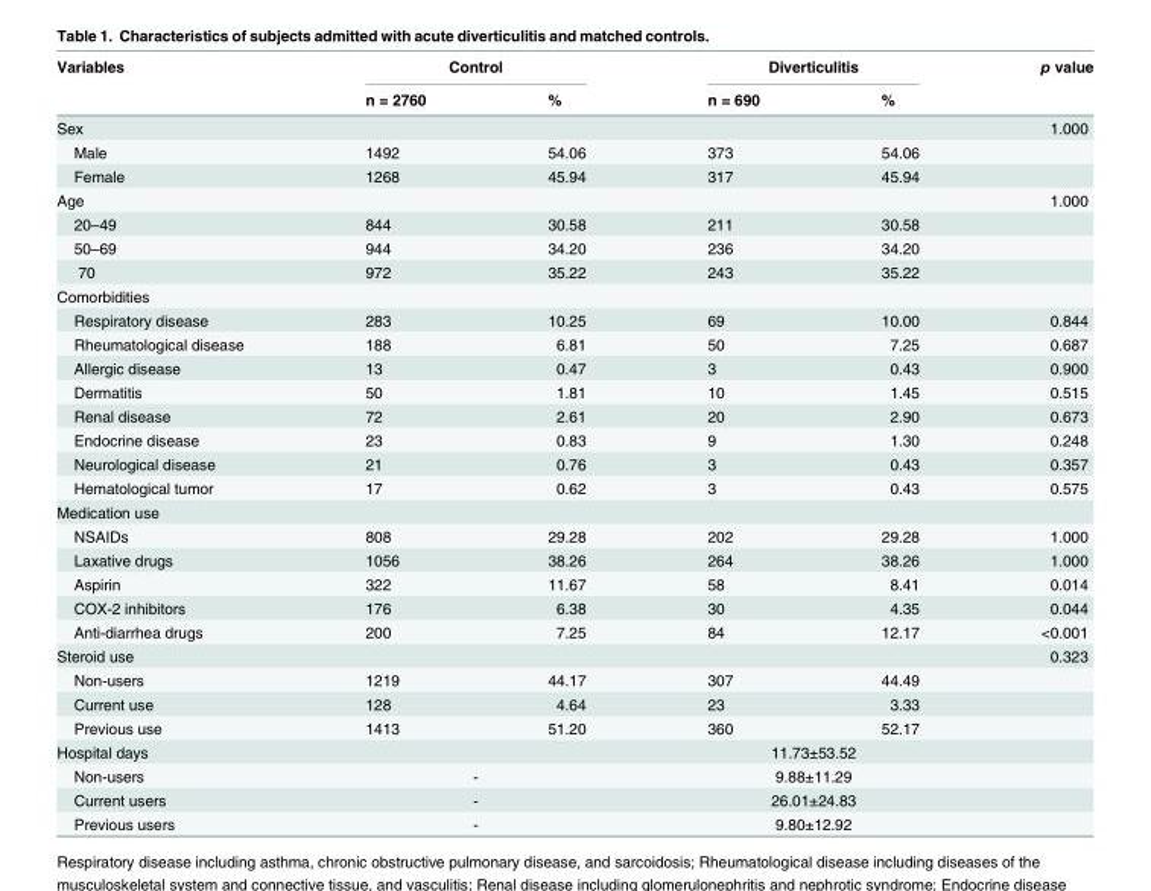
<table><thead><tr><td rowspan="2">Variables</td><td colspan="2">Control</td><td colspan="2">Diverticulitis</td><td rowspan="2">p value</td></tr><tr><td>n = 2760</td><td>%</td><td>n = 690</td><td>%</td></tr></thead><tbody><tr><td>Sex</td><td></td><td></td><td></td><td></td><td>1.000</td></tr><tr><td>Male</td><td>1492</td><td>54.06</td><td>373</td><td>54.06</td><td></td></tr><tr><td>Female</td><td>1268</td><td>45.94</td><td>317</td><td>45.94</td><td></td></tr><tr><td>Age</td><td></td><td></td><td></td><td></td><td>1.000</td></tr><tr><td>20–49</td><td>844</td><td>30.58</td><td>211</td><td>30.58</td><td></td></tr><tr><td>50–69</td><td>944</td><td>34.20</td><td>236</td><td>34.20</td><td></td></tr><tr><td>≥70</td><td>972</td><td>35.22</td><td>243</td><td>35.22</td><td></td></tr><tr><td colspan="6">Comorbidities</td></tr><tr><td>Respiratory disease</td><td>283</td><td>10.25</td><td>69</td><td>10.00</td><td>0.844</td></tr><tr><td>Rheumatological disease</td><td>188</td><td>6.81</td><td>50</td><td>7.25</td><td>0.687</td></tr><tr><td>Allergic disease</td><td>13</td><td>0.47</td><td>3</td><td>0.43</td><td>0.900</td></tr><tr><td>Dermatitis</td><td>50</td><td>1.81</td><td>10</td><td>1.45</td><td>0.515</td></tr><tr><td>Renal disease</td><td>72</td><td>2.61</td><td>20</td><td>2.90</td><td>0.673</td></tr><tr><td>Endocrine disease</td><td>23</td><td>0.83</td><td>9</td><td>1.30</td><td>0.248</td></tr><tr><td>Neurological disease</td><td>21</td><td>0.76</td><td>3</td><td>0.43</td><td>0.357</td></tr><tr><td>Hematological tumor</td><td>17</td><td>0.62</td><td>3</td><td>0.43</td><td>0.575</td></tr><tr><td colspan="6">Medication use</td></tr><tr><td>NSAIDs</td><td>808</td><td>29.28</td><td>202</td><td>29.28</td><td>1.000</td></tr><tr><td>Laxative drugs</td><td>1056</td><td>38.26</td><td>264</td><td>38.26</td><td>1.000</td></tr><tr><td>Aspirin</td><td>322</td><td>11.67</td><td>58</td><td>8.41</td><td>0.014</td></tr><tr><td>COX-2 inhibitors</td><td>176</td><td>6.38</td><td>30</td><td>4.35</td><td>0.044</td></tr><tr><td>Anti-diarrhea drugs</td><td>200</td><td>7.25</td><td>84</td><td>12.17</td><td>&lt;0.001</td></tr><tr><td>Steroid use</td><td></td><td></td><td></td><td></td><td>0.323</td></tr><tr><td>Non-users</td><td>1219</td><td>44.17</td><td>307</td><td>44.49</td><td></td></tr><tr><td>Current use</td><td>128</td><td>4.64</td><td>23</td><td>3.33</td><td></td></tr><tr><td>Previous use</td><td>1413</td><td>51.20</td><td>360</td><td>52.17</td><td></td></tr><tr><td>Hospital days</td><td colspan="2"></td><td colspan="2">11.73±53.52</td><td></td></tr><tr><td>Non-users</td><td colspan="2">-</td><td colspan="2">9.88±11.29</td><td></td></tr><tr><td>Current users</td><td colspan="2">-</td><td colspan="2">26.01±24.83</td><td></td></tr><tr><td>Previous users</td><td colspan="2">-</td><td colspan="2">9.80±12.92</td><td></td></tr></tbody></table>